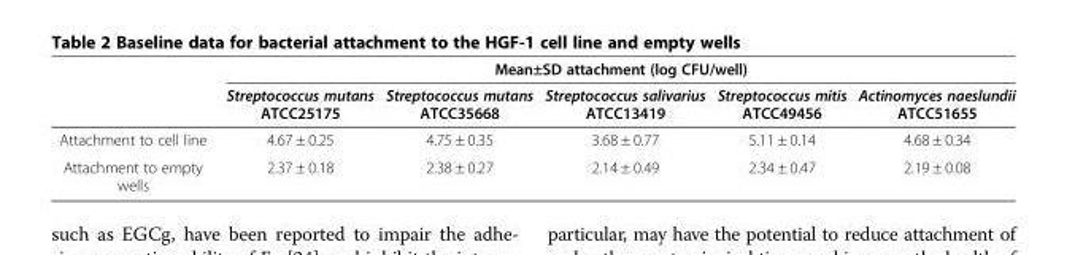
<table><thead><tr><td rowspan="2"></td><td colspan="5">Mean±SD attachment (log CFU/well)</td></tr><tr><td>Streptococcus mutans ATCC25175</td><td>Streptococcus mutans ATCC35668</td><td>Streptococcus salivarius ATCC13419</td><td>Streptococcus mitis ATCC49456</td><td>Actinomyces naeslundii ATCC51655</td></tr></thead><tbody><tr><td>Attachment to cell line</td><td>4.67 ± 0.25</td><td>4.75 ± 0.35</td><td>3.68 ± 0.77</td><td>5.11 ± 0.14</td><td>4.68 ± 0.34</td></tr><tr><td>Attachment to empty wells</td><td>2.37 ± 0.18</td><td>2.38 ± 0.27</td><td>2.14 ± 0.49</td><td>2.34 ± 0.47</td><td>2.19 ± 0.08</td></tr></tbody></table>